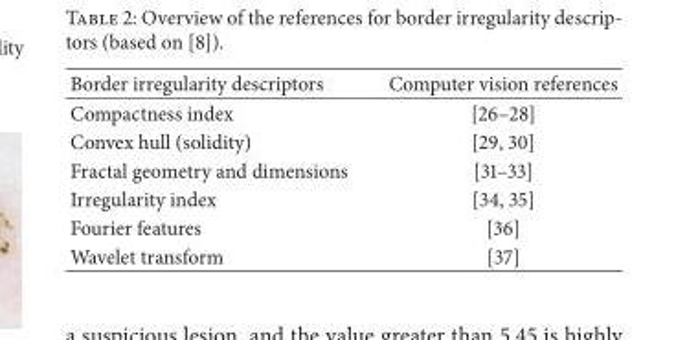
<table><thead><tr><td>Border irregularity descriptors</td><td>Computer vision references</td></tr></thead><tbody><tr><td>Compactness index</td><td>[26–28]</td></tr><tr><td>Convex hull (solidity)</td><td>[29, 30]</td></tr><tr><td>Fractal geometry and dimensions</td><td>[31–33]</td></tr><tr><td>Irregularity index</td><td>[34, 35]</td></tr><tr><td>Fourier features</td><td>[36]</td></tr><tr><td>Wavelet transform</td><td>[37]</td></tr></tbody></table>